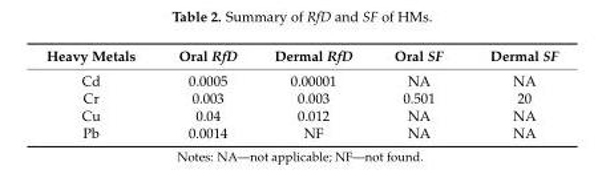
<table><thead><tr><td>Heavy Metals</td><td>Oral RfD</td><td>Dermal RfD</td><td>Oral SF</td><td>Dermal SF</td></tr></thead><tbody><tr><td>Cd</td><td>0.0005</td><td>0.00001</td><td>NA</td><td>NA</td></tr><tr><td>Cr</td><td>0.003</td><td>0.003</td><td>0.501</td><td>20</td></tr><tr><td>Cu</td><td>0.04</td><td>0.012</td><td>NA</td><td>NA</td></tr><tr><td>Pb</td><td>0.0014</td><td>NF</td><td>NA</td><td>NA</td></tr></tbody></table>